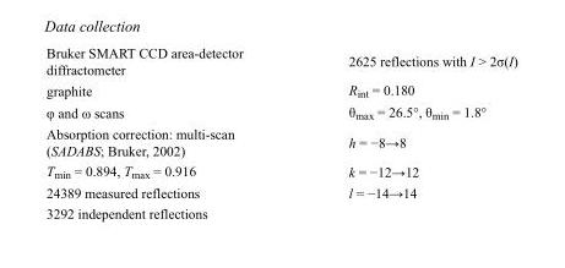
<table><tbody><tr><td>Bruker SMART CCD area-detector diffractometer</td><td>2625 reflections with I &gt; 2σ(I)</td></tr><tr><td>graphite</td><td>R<sub>int</sub> = 0.180</td></tr><tr><td>φ and ω scans</td><td>θ<sub>max</sub> = 26.5°, θ<sub>min</sub> = 1.8°</td></tr><tr><td>Absorption correction: multi-scan (SADABS; Bruker, 2002)</td><td>h = −8→8</td></tr><tr><td>T<sub>min</sub> = 0.894, T<sub>max</sub> = 0.916</td><td>k = −12→12</td></tr><tr><td>24389 measured reflections</td><td>l = −14→14</td></tr><tr><td>3292 independent reflections</td><td></td></tr></tbody></table>